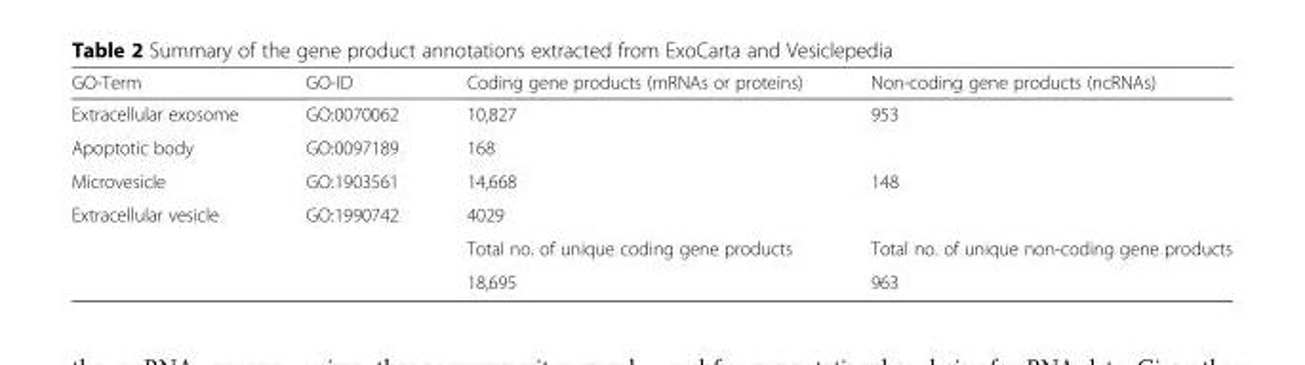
<table><thead><tr><td>GO-Term</td><td>GO-ID</td><td>Coding gene products (mRNAs or proteins)</td><td>Non-coding gene products (ncRNAs)</td></tr></thead><tbody><tr><td>Extracellular exosome</td><td>GO:0070062</td><td>10,827</td><td>953</td></tr><tr><td>Apoptotic body</td><td>GO:0097189</td><td>168</td><td></td></tr><tr><td>Microvesicle</td><td>GO:1903561</td><td>14,668</td><td>148</td></tr><tr><td>Extracellular vesicle</td><td>GO:1990742</td><td>4029</td><td></td></tr><tr><td rowspan="2" colspan="2"></td><td>Total no. of unique coding gene products</td><td>Total no. of unique non-coding gene products</td></tr><tr><td>18,695</td><td>963</td></tr></tbody></table>